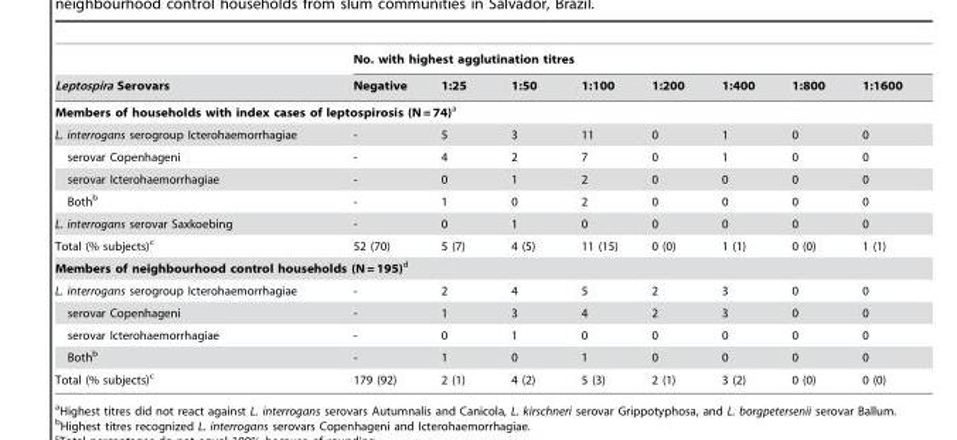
<table><thead><tr><td rowspan="2">Leptospira Serovars</td><td colspan="8">No. with highest agglutination titres</td></tr><tr><td>Negative</td><td>1:25</td><td>1:50</td><td>1:100</td><td>1:200</td><td>1:400</td><td>1:800</td><td>1:1600</td></tr></thead><tbody><tr><td colspan="9">Members of households with index cases of leptospirosis (N = 74)a</td></tr><tr><td>L. interrogans serogroup Icterohaemorrhagiae</td><td>-</td><td>5</td><td>3</td><td>11</td><td>0</td><td>1</td><td>0</td><td>0</td></tr><tr><td>serovar Copenhageni</td><td>-</td><td>4</td><td>2</td><td>7</td><td>0</td><td>1</td><td>0</td><td>0</td></tr><tr><td>serovar Icterohaemorrhagiae</td><td>-</td><td>0</td><td>1</td><td>2</td><td>0</td><td>0</td><td>0</td><td>0</td></tr><tr><td>Both<sup>b</sup></td><td>-</td><td>1</td><td>0</td><td>2</td><td>0</td><td>0</td><td>0</td><td>0</td></tr><tr><td>L. interrogans serovar Saxkoebing</td><td>-</td><td>0</td><td>1</td><td>0</td><td>0</td><td>0</td><td>0</td><td>0</td></tr><tr><td>Total (% subjects)<sup>c</sup></td><td>52 (70)</td><td>5 (7)</td><td>4 (5)</td><td>11 (15)</td><td>0 (0)</td><td>1 (1)</td><td>0 (0)</td><td>1 (1)</td></tr><tr><td colspan="9">Members of neighbourhood control households (N = 195)d</td></tr><tr><td>L. interrogans serogroup Icterohaemorrhagiae</td><td>-</td><td>2</td><td>4</td><td>5</td><td>2</td><td>3</td><td>0</td><td>0</td></tr><tr><td>serovar Copenhageni</td><td>-</td><td>1</td><td>3</td><td>4</td><td>2</td><td>3</td><td>0</td><td>0</td></tr><tr><td>serovar Icterohaemorrhagiae</td><td>-</td><td>0</td><td>1</td><td>0</td><td>0</td><td>0</td><td>0</td><td>0</td></tr><tr><td>Both<sup>b</sup></td><td>-</td><td>1</td><td>0</td><td>1</td><td>0</td><td>0</td><td>0</td><td>0</td></tr><tr><td>Total (% subjects)<sup>c</sup></td><td>179 (92)</td><td>2 (1)</td><td>4 (2)</td><td>5 (3)</td><td>2 (1)</td><td>3 (2)</td><td>0 (0)</td><td>0 (0)</td></tr></tbody></table>